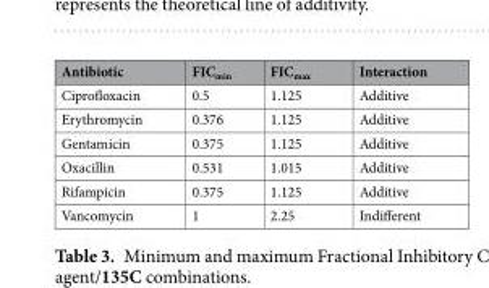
<table><thead><tr><td>Antibiotic</td><td>FIC<sub>min</sub></td><td>FIC<sub>max</sub></td><td>Interaction</td></tr></thead><tbody><tr><td>Ciprofloxacin</td><td>0.5</td><td>1.125</td><td>Additive</td></tr><tr><td>Erythromycin</td><td>0.376</td><td>1.125</td><td>Additive</td></tr><tr><td>Gentamicin</td><td>0.375</td><td>1.125</td><td>Additive</td></tr><tr><td>Oxacillin</td><td>0.531</td><td>1.015</td><td>Additive</td></tr><tr><td>Rifampicin</td><td>0.375</td><td>1.125</td><td>Additive</td></tr><tr><td>Vancomycin</td><td>1</td><td>2.25</td><td>Indifferent</td></tr></tbody></table>